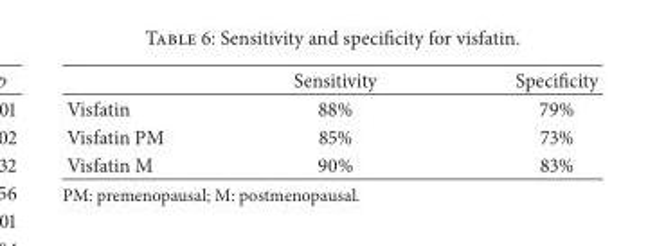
<table><thead><tr><td></td><td>Sensitivity</td><td>Specificity</td></tr></thead><tbody><tr><td>Visfatin</td><td>88%</td><td>79%</td></tr><tr><td>Visfatin PM</td><td>85%</td><td>73%</td></tr><tr><td>Visfatin M</td><td>90%</td><td>83%</td></tr></tbody></table>